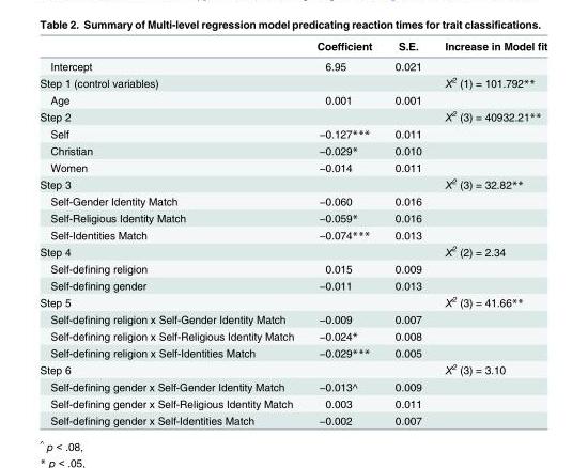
<table><thead><tr><td></td><td>Coefficient</td><td>S.E.</td><td>Increase in Model fit</td></tr></thead><tbody><tr><td>Intercept</td><td>6.95</td><td>0.021</td><td></td></tr><tr><td>Step 1 (control variables)</td><td></td><td></td><td>Χ<sup>2</sup> (1) = 101.792**</td></tr><tr><td>Age</td><td>0.001</td><td>0.001</td><td></td></tr><tr><td>Step 2</td><td></td><td></td><td>Χ<sup>2</sup> (3) = 40932.21**</td></tr><tr><td>Self</td><td>−0.127***</td><td>0.011</td><td></td></tr><tr><td>Christian</td><td>−0.029*</td><td>0.010</td><td></td></tr><tr><td>Women</td><td>−0.014</td><td>0.011</td><td></td></tr><tr><td>Step 3</td><td></td><td></td><td>Χ<sup>2</sup> (3) = 32.82**</td></tr><tr><td>Self-Gender Identity Match</td><td>−0.060</td><td>0.016</td><td></td></tr><tr><td>Self-Religious Identity Match</td><td>−0.059*</td><td>0.016</td><td></td></tr><tr><td>Self-Identities Match</td><td>−0.074***</td><td>0.013</td><td></td></tr><tr><td>Step 4</td><td></td><td></td><td>Χ<sup>2</sup> (2) = 2.34</td></tr><tr><td>Self-defining religion</td><td>0.015</td><td>0.009</td><td></td></tr><tr><td>Self-defining gender</td><td>−0.011</td><td>0.013</td><td></td></tr><tr><td>Step 5</td><td></td><td></td><td>Χ<sup>2</sup> (3) = 41.66**</td></tr><tr><td>Self-defining religion x Self-Gender Identity Match</td><td>−0.009</td><td>0.007</td><td></td></tr><tr><td>Self-defining religion x Self-Religious Identity Match</td><td>−0.024*</td><td>0.008</td><td></td></tr><tr><td>Self-defining religion x Self-Identities Match</td><td>−0.029***</td><td>0.005</td><td></td></tr><tr><td>Step 6</td><td></td><td></td><td>Χ<sup>2</sup> (3) = 3.10</td></tr><tr><td>Self-defining gender x Self-Gender Identity Match</td><td>−0.013^</td><td>0.009</td><td></td></tr><tr><td>Self-defining gender x Self-Religious Identity Match</td><td>0.003</td><td>0.011</td><td></td></tr><tr><td>Self-defining gender x Self-Identities Match</td><td>−0.002</td><td>0.007</td><td></td></tr></tbody></table>